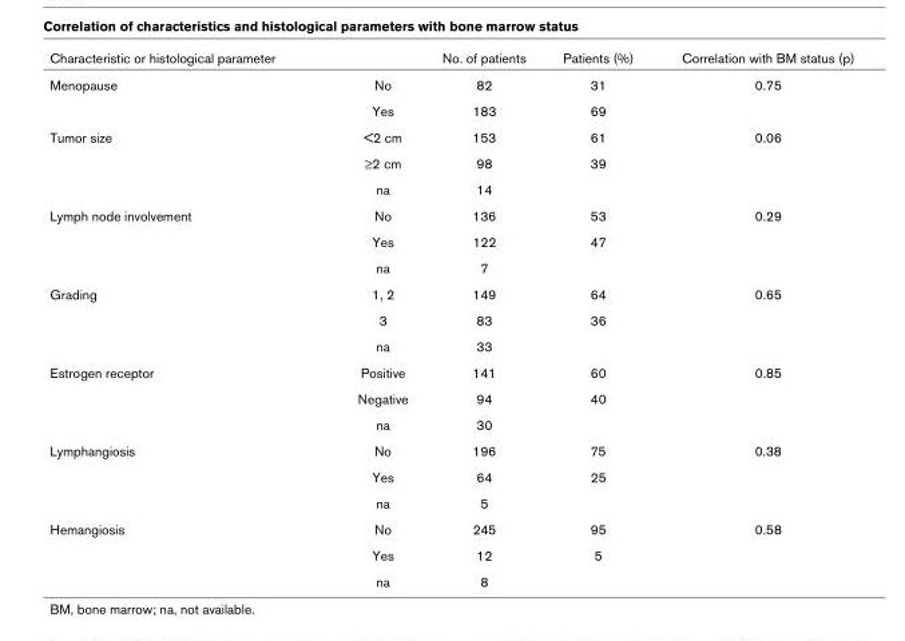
<table><thead><tr><td>Characteristic or histological parameter</td><td></td><td>No. of patients</td><td>Patients (%)</td><td>Correlation with BM status (p)</td></tr></thead><tbody><tr><td rowspan="2">Menopause</td><td>No</td><td>82</td><td>31</td><td>0.75</td></tr><tr><td>Yes</td><td>183</td><td>69</td><td></td></tr><tr><td rowspan="3">Tumor size</td><td>&lt;2 cm</td><td>153</td><td>61</td><td>0.06</td></tr><tr><td>≥2 cm</td><td>98</td><td>39</td><td></td></tr><tr><td>na</td><td>14</td><td></td><td></td></tr><tr><td rowspan="3">Lymph node involvement</td><td>No</td><td>136</td><td>53</td><td>0.29</td></tr><tr><td>Yes</td><td>122</td><td>47</td><td></td></tr><tr><td>na</td><td>7</td><td></td><td></td></tr><tr><td rowspan="3">Grading</td><td>1, 2</td><td>149</td><td>64</td><td>0.65</td></tr><tr><td>3</td><td>83</td><td>36</td><td></td></tr><tr><td>na</td><td>33</td><td></td><td></td></tr><tr><td rowspan="3">Estrogen receptor</td><td>Positive</td><td>141</td><td>60</td><td>0.85</td></tr><tr><td>Negative</td><td>94</td><td>40</td><td></td></tr><tr><td>na</td><td>30</td><td></td><td></td></tr><tr><td rowspan="3">Lymphangiosis</td><td>No</td><td>196</td><td>75</td><td>0.38</td></tr><tr><td>Yes</td><td>64</td><td>25</td><td></td></tr><tr><td>na</td><td>5</td><td></td><td></td></tr><tr><td rowspan="3">Hemangiosis</td><td>No</td><td>245</td><td>95</td><td>0.58</td></tr><tr><td>Yes</td><td>12</td><td>5</td><td></td></tr><tr><td>na</td><td>8</td><td></td><td></td></tr></tbody></table>